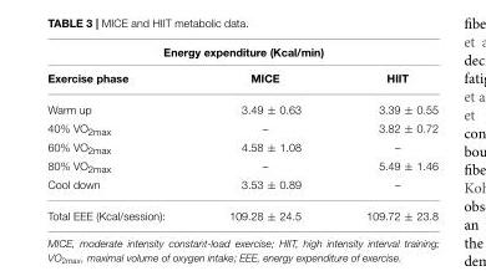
<table><thead><tr><td colspan="3">Energy expenditure (Kcal/min)</td></tr><tr><td>Exercise phase</td><td>MICE</td><td>HIIT</td></tr></thead><tbody><tr><td>Warm up</td><td>3.49 ± 0.63</td><td>3.39 ± 0.55</td></tr><tr><td>40% VO<sub>2max</sub></td><td>–</td><td>3.82 ± 0.72</td></tr><tr><td>60% VO<sub>2max</sub></td><td>4.58 ± 1.08</td><td>–</td></tr><tr><td>80% VO<sub>2max</sub></td><td>–</td><td>5.49 ± 1.46</td></tr><tr><td>Cool down</td><td>3.53 ± 0.89</td><td>–</td></tr><tr><td>Total EEE (Kcal/session):</td><td>109.28 ± 24.5</td><td>109.72 ± 23.8</td></tr></tbody></table>